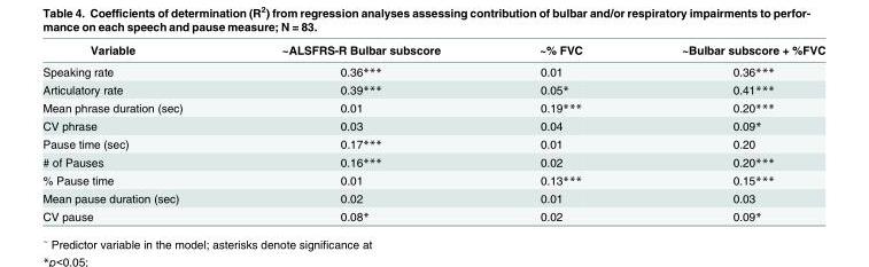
<table><thead><tr><td>Variable</td><td>~ALSFRS-R Bulbar subscore</td><td>~% FVC</td><td>~Bulbar subscore + %FVC</td></tr></thead><tbody><tr><td>Speaking rate</td><td>0.36***</td><td>0.01</td><td>0.36***</td></tr><tr><td>Articulatory rate</td><td>0.39***</td><td>0.05*</td><td>0.41***</td></tr><tr><td>Mean phrase duration (sec)</td><td>0.01</td><td>0.19***</td><td>0.20***</td></tr><tr><td>CV phrase</td><td>0.03</td><td>0.04</td><td>0.09*</td></tr><tr><td>Pause time (sec)</td><td>0.17***</td><td>0.01</td><td>0.20</td></tr><tr><td># of Pauses</td><td>0.16***</td><td>0.02</td><td>0.20***</td></tr><tr><td>% Pause time</td><td>0.01</td><td>0.13***</td><td>0.15***</td></tr><tr><td>Mean pause duration (sec)</td><td>0.02</td><td>0.01</td><td>0.03</td></tr><tr><td>CV pause</td><td>0.08*</td><td>0.02</td><td>0.09*</td></tr></tbody></table>